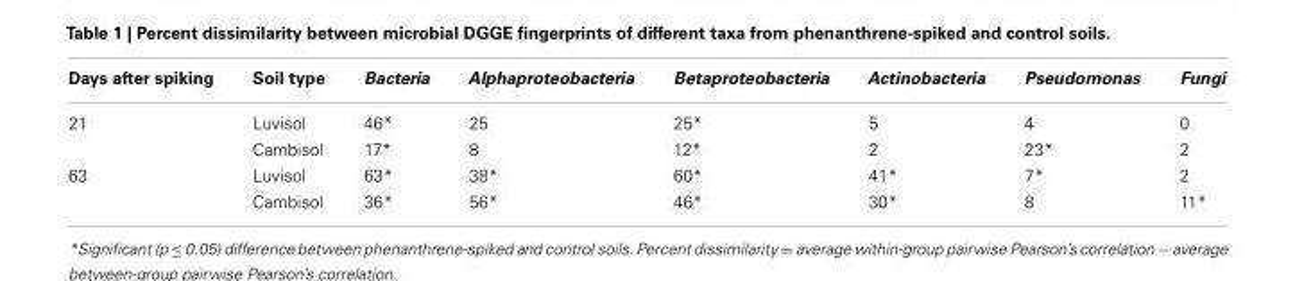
<table><thead><tr><td>Days after spiking</td><td>Soil type</td><td>Bacteria</td><td>Alphaproteobacteria</td><td>Betaproteobacteria</td><td>Actinobacteria</td><td>Pseudomonas</td><td>Fungi</td></tr></thead><tbody><tr><td rowspan="2">21</td><td>Luvisol</td><td>46*</td><td>25</td><td>25*</td><td>5</td><td>4</td><td>0</td></tr><tr><td>Cambisol</td><td>17*</td><td>8</td><td>12*</td><td>2</td><td>23*</td><td>2</td></tr><tr><td rowspan="2">63</td><td>Luvisol</td><td>63*</td><td>38*</td><td>60*</td><td>41*</td><td>7*</td><td>2</td></tr><tr><td>Cambisol</td><td>36*</td><td>56*</td><td>46*</td><td>30*</td><td>8</td><td>11*</td></tr></tbody></table>